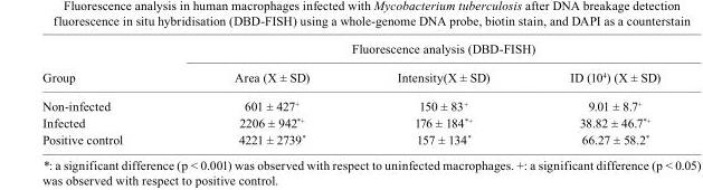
<table><thead><tr><td rowspan="2">Group</td><td colspan="3">Fluorescence analysis (DBD-FISH)</td></tr><tr><td>Area (X ± SD)</td><td>Intensity(X ± SD)</td><td>ID (10<sup>4</sup>) (X ± SD)</td></tr></thead><tbody><tr><td>Non-infected</td><td>601 ± 427+</td><td>150 ± 83+</td><td>9.01 ± 8.7+</td></tr><tr><td>Infected</td><td>2206 ± 942*+</td><td>176 ± 184*+</td><td>38.82 ± 46.7*+</td></tr><tr><td>Positive control</td><td>4221 ± 2739*</td><td>157 ± 134*</td><td>66.27 ± 58.2*</td></tr></tbody></table>